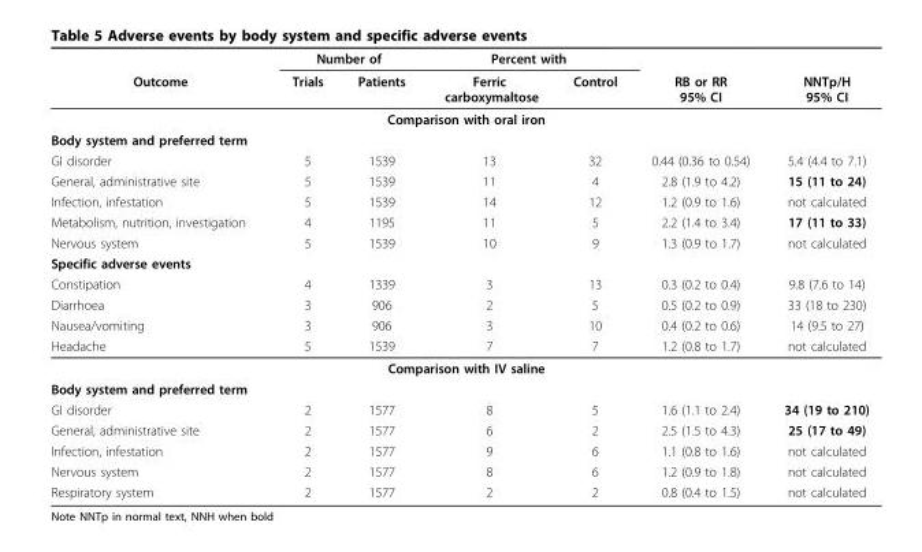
<table><thead><tr><td rowspan="2">Outcome</td><td colspan="2">Number of</td><td colspan="2">Percent with</td><td rowspan="2">RB or RR 95% CI</td><td rowspan="2">NNTp/H 95% CI</td></tr><tr><td>Trials</td><td>Patients</td><td>Ferric carboxymaltose</td><td>Control</td></tr></thead><tbody><tr><td colspan="7">Comparison with oral iron</td></tr><tr><td colspan="7">Body system and preferred term</td></tr><tr><td>GI disorder</td><td>5</td><td>1539</td><td>13</td><td>32</td><td>0.44 (0.36 to 0.54)</td><td>5.4 (4.4 to 7.1)</td></tr><tr><td>General, administrative site</td><td>5</td><td>1539</td><td>11</td><td>4</td><td>2.8 (1.9 to 4.2)</td><td>15 (11 to 24)</td></tr><tr><td>Infection, infestation</td><td>5</td><td>1539</td><td>14</td><td>12</td><td>1.2 (0.9 to 1.6)</td><td>not calculated</td></tr><tr><td>Metabolism, nutrition, investigation</td><td>4</td><td>1195</td><td>11</td><td>5</td><td>2.2 (1.4 to 3.4)</td><td>17 (11 to 33)</td></tr><tr><td>Nervous system</td><td>5</td><td>1539</td><td>10</td><td>9</td><td>1.3 (0.9 to 1.7)</td><td>not calculated</td></tr><tr><td colspan="7">Specific adverse events</td></tr><tr><td>Constipation</td><td>4</td><td>1339</td><td>3</td><td>13</td><td>0.3 (0.2 to 0.4)</td><td>9.8 (7.6 to 14)</td></tr><tr><td>Diarrhoea</td><td>3</td><td>906</td><td>2</td><td>5</td><td>0.5 (0.2 to 0.9)</td><td>33 (18 to 230)</td></tr><tr><td>Nausea/vomiting</td><td>3</td><td>906</td><td>3</td><td>10</td><td>0.4 (0.2 to 0.6)</td><td>14 (9.5 to 27)</td></tr><tr><td>Headache</td><td>5</td><td>1539</td><td>7</td><td>7</td><td>1.2 (0.8 to 1.7)</td><td>not calculated</td></tr><tr><td colspan="7">Comparison with IV saline</td></tr><tr><td colspan="7">Body system and preferred term</td></tr><tr><td>GI disorder</td><td>2</td><td>1577</td><td>8</td><td>5</td><td>1.6 (1.1 to 2.4)</td><td>34 (19 to 210)</td></tr><tr><td>General, administrative site</td><td>2</td><td>1577</td><td>6</td><td>2</td><td>2.5 (1.5 to 4.3)</td><td>25 (17 to 49)</td></tr><tr><td>Infection, infestation</td><td>2</td><td>1577</td><td>9</td><td>6</td><td>1.1 (0.8 to 1.6)</td><td>not calculated</td></tr><tr><td>Nervous system</td><td>2</td><td>1577</td><td>8</td><td>6</td><td>1.2 (0.9 to 1.8)</td><td>not calculated</td></tr><tr><td>Respiratory system</td><td>2</td><td>1577</td><td>2</td><td>2</td><td>0.8 (0.4 to 1.5)</td><td>not calculated</td></tr></tbody></table>